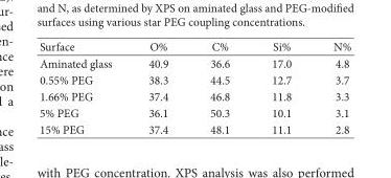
<table><thead><tr><td>Surface</td><td>O%</td><td>C%</td><td>Si%</td><td>N%</td></tr></thead><tbody><tr><td>Aminated glass</td><td>40.9</td><td>36.6</td><td>17.0</td><td>4.8</td></tr><tr><td>0.55% PEG</td><td>38.3</td><td>44.5</td><td>12.7</td><td>3.7</td></tr><tr><td>1.66% PEG</td><td>37.4</td><td>46.8</td><td>11.8</td><td>3.3</td></tr><tr><td>5% PEG</td><td>36.1</td><td>50.3</td><td>10.1</td><td>3.1</td></tr><tr><td>15% PEG</td><td>37.4</td><td>48.1</td><td>11.1</td><td>2.8</td></tr></tbody></table>